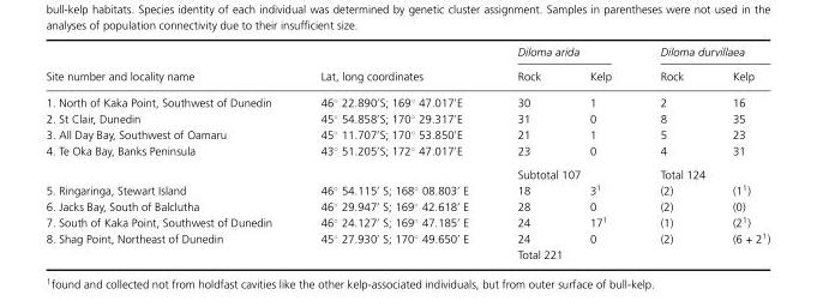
<table><thead><tr><td rowspan="2">Site number and locality name</td><td rowspan="2">Lat, long coordinates</td><td colspan="2">Diloma arida</td><td colspan="2">Diloma durvillaea</td></tr><tr><td>Rock</td><td>Kelp</td><td>Rock</td><td>Kelp</td></tr></thead><tbody><tr><td>1. North of Kaka Point, Southwest of Dunedin</td><td>46◦ 22.890′S; 169◦ 47.017′E</td><td>30</td><td>1</td><td>2</td><td>16</td></tr><tr><td>2. St Clair, Dunedin</td><td>45◦ 54.858′S; 170◦ 29.317′E</td><td>31</td><td>0</td><td>8</td><td>35</td></tr><tr><td>3. All Day Bay, Southwest of Oamaru</td><td>45◦ 11.707′S; 170◦ 53.850′E</td><td>21</td><td>1</td><td>5</td><td>23</td></tr><tr><td rowspan="2">4. Te Oka Bay, Banks Peninsula</td><td>43◦ 51.205′S; 172◦ 47.017′E</td><td>23</td><td>0</td><td>4</td><td>31</td></tr><tr><td></td><td colspan="2">Subtotal 107</td><td colspan="2">Total 124</td></tr><tr><td>5. Ringaringa, Stewart Island</td><td>46◦ 54.115′ S; 168◦ 08.803′ E</td><td>18</td><td>3<sup>1</sup></td><td>(2)</td><td>(1<sup>1</sup>)</td></tr><tr><td>6. Jacks Bay, South of Balclutha</td><td>46◦ 29.947′ S; 169◦ 42.618′ E</td><td>28</td><td>0</td><td>(2)</td><td>(0)</td></tr><tr><td>7. South of Kaka Point, Southwest of Dunedin</td><td>46◦ 24.127′ S; 169◦ 47.185′ E</td><td>24</td><td>17<sup>1</sup></td><td>(1)</td><td>(2<sup>1</sup>)</td></tr><tr><td rowspan="2">8. Shag Point, Northeast of Dunedin</td><td>45◦ 27.930′ S; 170◦ 49.650′ E</td><td>24</td><td>0</td><td>(2)</td><td>(6 + 2<sup>1</sup>)</td></tr><tr><td></td><td colspan="2">Total 221</td><td></td><td></td></tr></tbody></table>